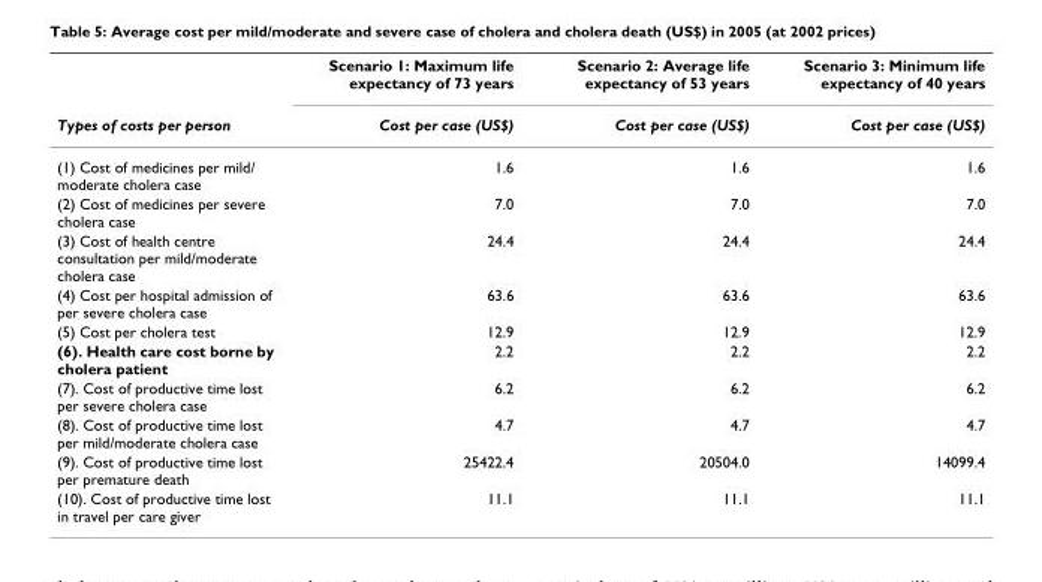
<table><thead><tr><td rowspan="2">Types of costs per person</td><td rowspan="2">Scenario 1: Maximum life expectancy of 73 years Cost per case (US$)</td><td rowspan="2">Scenario 2: Average life expectancy of 53 years Cost per case (US$)</td><td rowspan="2">Scenario 3: Minimum life expectancy of 40 years Cost per case (US$)</td></tr><tr></tr></thead><tbody><tr><td>(1) Cost of medicines per mild/ moderate cholera case</td><td>1.6</td><td>1.6</td><td>1.6</td></tr><tr><td>(2) Cost of medicines per severe cholera case</td><td>7.0</td><td>7.0</td><td>7.0</td></tr><tr><td>(3) Cost of health centre consultation per mild/moderate cholera case</td><td>24.4</td><td>24.4</td><td>24.4</td></tr><tr><td>(4) Cost per hospital admission of per severe cholera case</td><td>63.6</td><td>63.6</td><td>63.6</td></tr><tr><td>(5) Cost per cholera test</td><td>12.9</td><td>12.9</td><td>12.9</td></tr><tr><td>(6). Health care cost borne by cholera patient</td><td>2.2</td><td>2.2</td><td>2.2</td></tr><tr><td>(7). Cost of productive time lost per severe cholera case</td><td>6.2</td><td>6.2</td><td>6.2</td></tr><tr><td>(8). Cost of productive time lost per mild/moderate cholera case</td><td>4.7</td><td>4.7</td><td>4.7</td></tr><tr><td>(9). Cost of productive time lost per premature death</td><td>25422.4</td><td>20504.0</td><td>14099.4</td></tr><tr><td>(10). Cost of productive time lost in travel per care giver</td><td>11.1</td><td>11.1</td><td>11.1</td></tr></tbody></table>